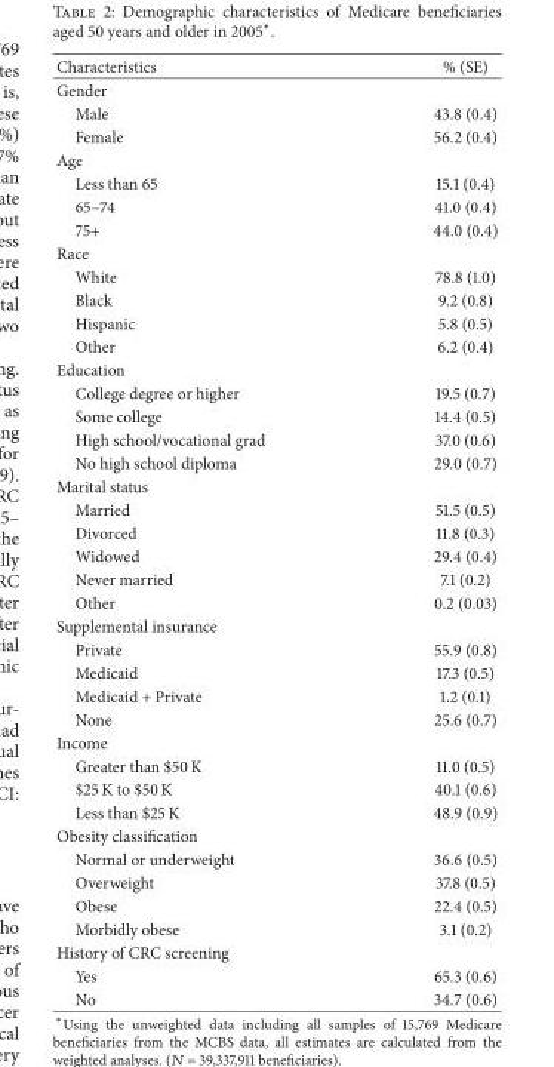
<table><thead><tr><td>Characteristics</td><td>% (SE)</td></tr></thead><tbody><tr><td colspan="2">Gender</td></tr><tr><td>Male</td><td>43.8 (0.4)</td></tr><tr><td>Female</td><td>56.2 (0.4)</td></tr><tr><td colspan="2">Age</td></tr><tr><td>Less than 65</td><td>15.1 (0.4)</td></tr><tr><td>65–74</td><td>41.0 (0.4)</td></tr><tr><td>75+</td><td>44.0 (0.4)</td></tr><tr><td colspan="2">Race</td></tr><tr><td>White</td><td>78.8 (1.0)</td></tr><tr><td>Black</td><td>9.2 (0.8)</td></tr><tr><td>Hispanic</td><td>5.8 (0.5)</td></tr><tr><td>Other</td><td>6.2 (0.4)</td></tr><tr><td colspan="2">Education</td></tr><tr><td>College degree or higher</td><td>19.5 (0.7)</td></tr><tr><td>Some college</td><td>14.4 (0.5)</td></tr><tr><td>High school/vocational grad</td><td>37.0 (0.6)</td></tr><tr><td>No high school diploma</td><td>29.0 (0.7)</td></tr><tr><td colspan="2">Marital status</td></tr><tr><td>Married</td><td>51.5 (0.5)</td></tr><tr><td>Divorced</td><td>11.8 (0.3)</td></tr><tr><td>Widowed</td><td>29.4 (0.4)</td></tr><tr><td>Never married</td><td>7.1 (0.2)</td></tr><tr><td>Other</td><td>0.2 (0.03)</td></tr><tr><td colspan="2">Supplemental insurance</td></tr><tr><td>Private</td><td>55.9 (0.8)</td></tr><tr><td>Medicaid</td><td>17.3 (0.5)</td></tr><tr><td>Medicaid + Private</td><td>1.2 (0.1)</td></tr><tr><td>None</td><td>25.6 (0.7)</td></tr><tr><td colspan="2">Income</td></tr><tr><td>Greater than $50 K</td><td>11.0 (0.5)</td></tr><tr><td>$25 K to $50 K</td><td>40.1 (0.6)</td></tr><tr><td>Less than $25 K</td><td>48.9 (0.9)</td></tr><tr><td colspan="2">Obesity classification</td></tr><tr><td>Normal or underweight</td><td>36.6 (0.5)</td></tr><tr><td>Overweight</td><td>37.8 (0.5)</td></tr><tr><td>Obese</td><td>22.4 (0.5)</td></tr><tr><td>Morbidly obese</td><td>3.1 (0.2)</td></tr><tr><td colspan="2">History of CRC screening</td></tr><tr><td>Yes</td><td>65.3 (0.6)</td></tr><tr><td>No</td><td>34.7 (0.6)</td></tr></tbody></table>